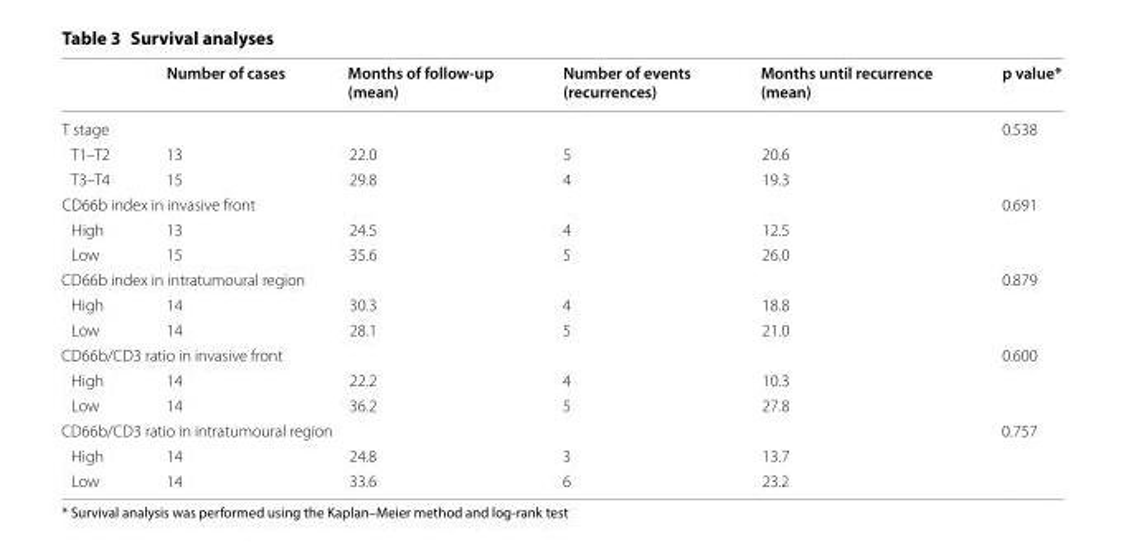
<table><thead><tr><td></td><td>Number of cases</td><td>Months of follow-up (mean)</td><td>Number of events (recurrences)</td><td>Months until recurrence (mean)</td><td>p value*</td></tr></thead><tbody><tr><td colspan="5">T stage</td><td>0.538</td></tr><tr><td>T1–T2</td><td>13</td><td>22.0</td><td>5</td><td>20.6</td><td></td></tr><tr><td>T3–T4</td><td>15</td><td>29.8</td><td>4</td><td>19.3</td><td></td></tr><tr><td colspan="5">CD66b index in invasive front</td><td>0.691</td></tr><tr><td>High</td><td>13</td><td>24.5</td><td>4</td><td>12.5</td><td></td></tr><tr><td>Low</td><td>15</td><td>35.6</td><td>5</td><td>26.0</td><td></td></tr><tr><td colspan="5">CD66b index in intratumoural region</td><td>0.879</td></tr><tr><td>High</td><td>14</td><td>30.3</td><td>4</td><td>18.8</td><td></td></tr><tr><td>Low</td><td>14</td><td>28.1</td><td>5</td><td>21.0</td><td></td></tr><tr><td colspan="5">CD66b/CD3 ratio in invasive front</td><td>0.600</td></tr><tr><td>High</td><td>14</td><td>22.2</td><td>4</td><td>10.3</td><td></td></tr><tr><td>Low</td><td>14</td><td>36.2</td><td>5</td><td>27.8</td><td></td></tr><tr><td colspan="5">CD66b/CD3 ratio in intratumoural region</td><td>0.757</td></tr><tr><td>High</td><td>14</td><td>24.8</td><td>3</td><td>13.7</td><td></td></tr><tr><td>Low</td><td>14</td><td>33.6</td><td>6</td><td>23.2</td><td></td></tr></tbody></table>